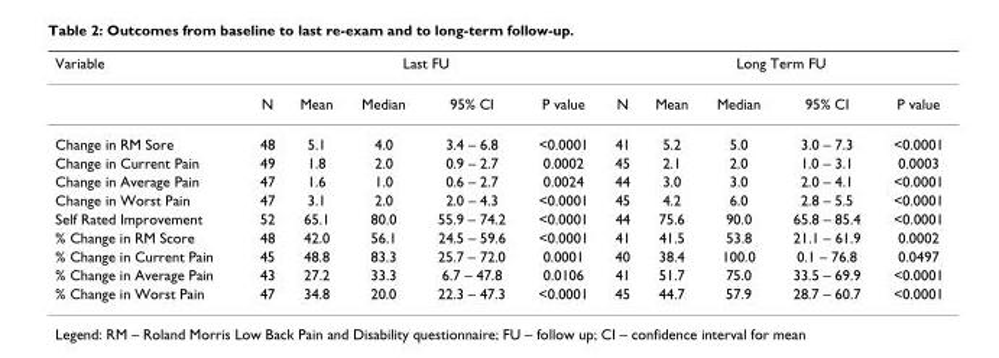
<table><thead><tr><td rowspan="2">Variable</td><td colspan="5">Last FU</td><td colspan="5">Long Term FU</td></tr><tr><td>N</td><td>Mean</td><td>Median</td><td>95% CI</td><td>P value</td><td>N</td><td>Mean</td><td>Median</td><td>95% CI</td><td>P value</td></tr></thead><tbody><tr><td>Change in RM Sore</td><td>48</td><td>5.1</td><td>4.0</td><td>3.4 – 6.8</td><td>&lt;0.0001</td><td>41</td><td>5.2</td><td>5.0</td><td>3.0 – 7.3</td><td>&lt;0.0001</td></tr><tr><td>Change in Current Pain</td><td>49</td><td>1.8</td><td>2.0</td><td>0.9 – 2.7</td><td>0.0002</td><td>45</td><td>2.1</td><td>2.0</td><td>1.0 – 3.1</td><td>0.0003</td></tr><tr><td>Change in Average Pain</td><td>47</td><td>1.6</td><td>1.0</td><td>0.6 – 2.7</td><td>0.0024</td><td>44</td><td>3.0</td><td>3.0</td><td>2.0 – 4.1</td><td>&lt;0.0001</td></tr><tr><td>Change in Worst Pain</td><td>47</td><td>3.1</td><td>2.0</td><td>2.0 – 4.3</td><td>&lt;0.0001</td><td>45</td><td>4.2</td><td>6.0</td><td>2.8 – 5.5</td><td>&lt;0.0001</td></tr><tr><td>Self Rated Improvement</td><td>52</td><td>65.1</td><td>80.0</td><td>55.9 – 74.2</td><td>&lt;0.0001</td><td>44</td><td>75.6</td><td>90.0</td><td>65.8 – 85.4</td><td>&lt;0.0001</td></tr><tr><td>% Change in RM Score</td><td>48</td><td>42.0</td><td>56.1</td><td>24.5 – 59.6</td><td>&lt;0.0001</td><td>41</td><td>41.5</td><td>53.8</td><td>21.1 – 61.9</td><td>0.0002</td></tr><tr><td>% Change in Current Pain</td><td>45</td><td>48.8</td><td>83.3</td><td>25.7 – 72.0</td><td>0.0001</td><td>40</td><td>38.4</td><td>100.0</td><td>0.1 – 76.8</td><td>0.0497</td></tr><tr><td>% Change in Average Pain</td><td>43</td><td>27.2</td><td>33.3</td><td>6.7 – 47.8</td><td>0.0106</td><td>41</td><td>51.7</td><td>75.0</td><td>33.5 – 69.9</td><td>&lt;0.0001</td></tr><tr><td>% Change in Worst Pain</td><td>47</td><td>34.8</td><td>20.0</td><td>22.3 – 47.3</td><td>&lt;0.0001</td><td>45</td><td>44.7</td><td>57.9</td><td>28.7 – 60.7</td><td>&lt;0.0001</td></tr></tbody></table>